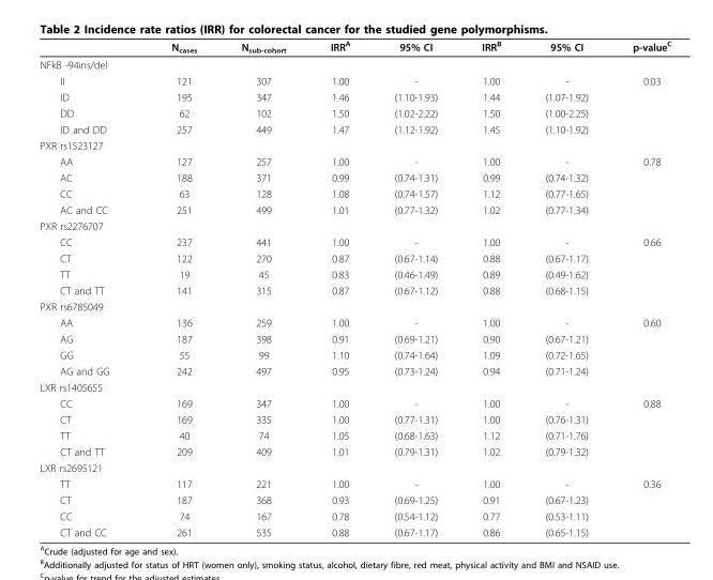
<table><thead><tr><td></td><td>N<sub>cases</sub></td><td>N<sub>sub-cohort</sub></td><td>IRR<sup>A</sup></td><td>95% CI</td><td>IRR<sup>B</sup></td><td>95% CI</td><td>p-value<sup>C</sup></td></tr></thead><tbody><tr><td colspan="8">NFkB -94ins/del</td></tr><tr><td>II</td><td>121</td><td>307</td><td>1.00</td><td>-</td><td>1.00</td><td>-</td><td>0.03</td></tr><tr><td>ID</td><td>195</td><td>347</td><td>1.46</td><td>(1.10-1.93)</td><td>1.44</td><td>(1.07-1.92)</td><td></td></tr><tr><td>DD</td><td>62</td><td>102</td><td>1.50</td><td>(1.02-2.22)</td><td>1.50</td><td>(1.00-2.25)</td><td></td></tr><tr><td>ID and DD</td><td>257</td><td>449</td><td>1.47</td><td>(1.12-1.92)</td><td>1.45</td><td>(1.10-1.92)</td><td></td></tr><tr><td colspan="8">PXR rs1523127</td></tr><tr><td>AA</td><td>127</td><td>257</td><td>1.00</td><td>-</td><td>1.00</td><td>-</td><td>0.78</td></tr><tr><td>AC</td><td>188</td><td>371</td><td>0.99</td><td>(0.74-1.31)</td><td>0.99</td><td>(0.74-1.32)</td><td></td></tr><tr><td>CC</td><td>63</td><td>128</td><td>1.08</td><td>(0.74-1.57)</td><td>1.12</td><td>(0.77-1.65)</td><td></td></tr><tr><td>AC and CC</td><td>251</td><td>499</td><td>1.01</td><td>(0.77-1.32)</td><td>1.02</td><td>(0.77-1.34)</td><td></td></tr><tr><td colspan="8">PXR rs2276707</td></tr><tr><td>CC</td><td>237</td><td>441</td><td>1.00</td><td>-</td><td>1.00</td><td>-</td><td>0.66</td></tr><tr><td>CT</td><td>122</td><td>270</td><td>0.87</td><td>(0.67-1.14)</td><td>0.88</td><td>(0.67-1.17)</td><td></td></tr><tr><td>TT</td><td>19</td><td>45</td><td>0.83</td><td>(0.46-1.49)</td><td>0.89</td><td>(0.49-1.62)</td><td></td></tr><tr><td>CT and TT</td><td>141</td><td>315</td><td>0.87</td><td>(0.67-1.12)</td><td>0.88</td><td>(0.68-1.15)</td><td></td></tr><tr><td colspan="8">PXR rs6785049</td></tr><tr><td>AA</td><td>136</td><td>259</td><td>1.00</td><td>-</td><td>1.00</td><td>-</td><td>0.60</td></tr><tr><td>AG</td><td>187</td><td>398</td><td>0.91</td><td>(0.69-1.21)</td><td>0.90</td><td>(0.67-1.21)</td><td></td></tr><tr><td>GG</td><td>55</td><td>99</td><td>1.10</td><td>(0.74-1.64)</td><td>1.09</td><td>(0.72-1.65)</td><td></td></tr><tr><td>AG and GG</td><td>242</td><td>497</td><td>0.95</td><td>(0.73-1.24)</td><td>0.94</td><td>(0.71-1.24)</td><td></td></tr><tr><td colspan="8">LXR rs1405655</td></tr><tr><td>CC</td><td>169</td><td>347</td><td>1.00</td><td>-</td><td>1.00</td><td>-</td><td>0.88</td></tr><tr><td>CT</td><td>169</td><td>335</td><td>1.00</td><td>(0.77-1.31)</td><td>1.00</td><td>(0.76-1.31)</td><td></td></tr><tr><td>TT</td><td>40</td><td>74</td><td>1.05</td><td>(0.68-1.63)</td><td>1.12</td><td>(0.71-1.76)</td><td></td></tr><tr><td>CT and TT</td><td>209</td><td>409</td><td>1.01</td><td>(0.79-1.31)</td><td>1.02</td><td>(0.79-1.32)</td><td></td></tr><tr><td colspan="8">LXR rs2695121</td></tr><tr><td>TT</td><td>117</td><td>221</td><td>1.00</td><td>-</td><td>1.00</td><td>-</td><td>0.36</td></tr><tr><td>CT</td><td>187</td><td>368</td><td>0.93</td><td>(0.69-1.25)</td><td>0.91</td><td>(0.67-1.23)</td><td></td></tr><tr><td>CC</td><td>74</td><td>167</td><td>0.78</td><td>(0.54-1.12)</td><td>0.77</td><td>(0.53-1.11)</td><td></td></tr><tr><td>CT and CC</td><td>261</td><td>535</td><td>0.88</td><td>(0.67-1.17)</td><td>0.86</td><td>(0.65-1.15)</td><td></td></tr></tbody></table>